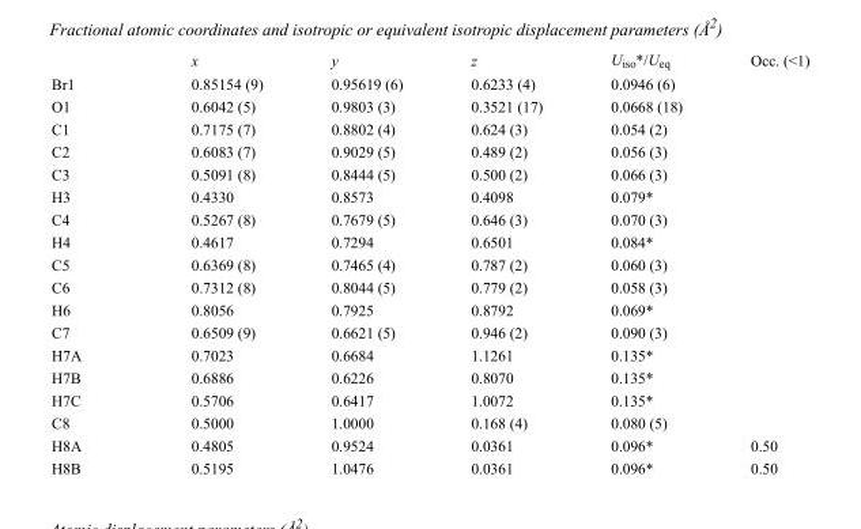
<table><thead><tr><td></td><td>x</td><td>y</td><td>z</td><td>U<sub>iso</sub>*/U<sub>eq</sub></td><td>Occ. (&lt;1)</td></tr></thead><tbody><tr><td>Br1</td><td>0.85154 (9)</td><td>0.95619 (6)</td><td>0.6233 (4)</td><td>0.0946 (6)</td><td></td></tr><tr><td>O1</td><td>0.6042 (5)</td><td>0.9803 (3)</td><td>0.3521 (17)</td><td>0.0668 (18)</td><td></td></tr><tr><td>C1</td><td>0.7175 (7)</td><td>0.8802 (4)</td><td>0.624 (3)</td><td>0.054 (2)</td><td></td></tr><tr><td>C2</td><td>0.6083 (7)</td><td>0.9029 (5)</td><td>0.489 (2)</td><td>0.056 (3)</td><td></td></tr><tr><td>C3</td><td>0.5091 (8)</td><td>0.8444 (5)</td><td>0.500 (2)</td><td>0.066 (3)</td><td></td></tr><tr><td>H3</td><td>0.4330</td><td>0.8573</td><td>0.4098</td><td>0.079*</td><td></td></tr><tr><td>C4</td><td>0.5267 (8)</td><td>0.7679 (5)</td><td>0.646 (3)</td><td>0.070 (3)</td><td></td></tr><tr><td>H4</td><td>0.4617</td><td>0.7294</td><td>0.6501</td><td>0.084*</td><td></td></tr><tr><td>C5</td><td>0.6369 (8)</td><td>0.7465 (4)</td><td>0.787 (2)</td><td>0.060 (3)</td><td></td></tr><tr><td>C6</td><td>0.7312 (8)</td><td>0.8044 (5)</td><td>0.779 (2)</td><td>0.058 (3)</td><td></td></tr><tr><td>H6</td><td>0.8056</td><td>0.7925</td><td>0.8792</td><td>0.069*</td><td></td></tr><tr><td>C7</td><td>0.6509 (9)</td><td>0.6621 (5)</td><td>0.946 (2)</td><td>0.090 (3)</td><td></td></tr><tr><td>H7A</td><td>0.7023</td><td>0.6684</td><td>1.1261</td><td>0.135*</td><td></td></tr><tr><td>H7B</td><td>0.6886</td><td>0.6226</td><td>0.8070</td><td>0.135*</td><td></td></tr><tr><td>H7C</td><td>0.5706</td><td>0.6417</td><td>1.0072</td><td>0.135*</td><td></td></tr><tr><td>C8</td><td>0.5000</td><td>1.0000</td><td>0.168 (4)</td><td>0.080 (5)</td><td></td></tr><tr><td>H8A</td><td>0.4805</td><td>0.9524</td><td>0.0361</td><td>0.096*</td><td>0.50</td></tr><tr><td>H8B</td><td>0.5195</td><td>1.0476</td><td>0.0361</td><td>0.096*</td><td>0.50</td></tr></tbody></table>